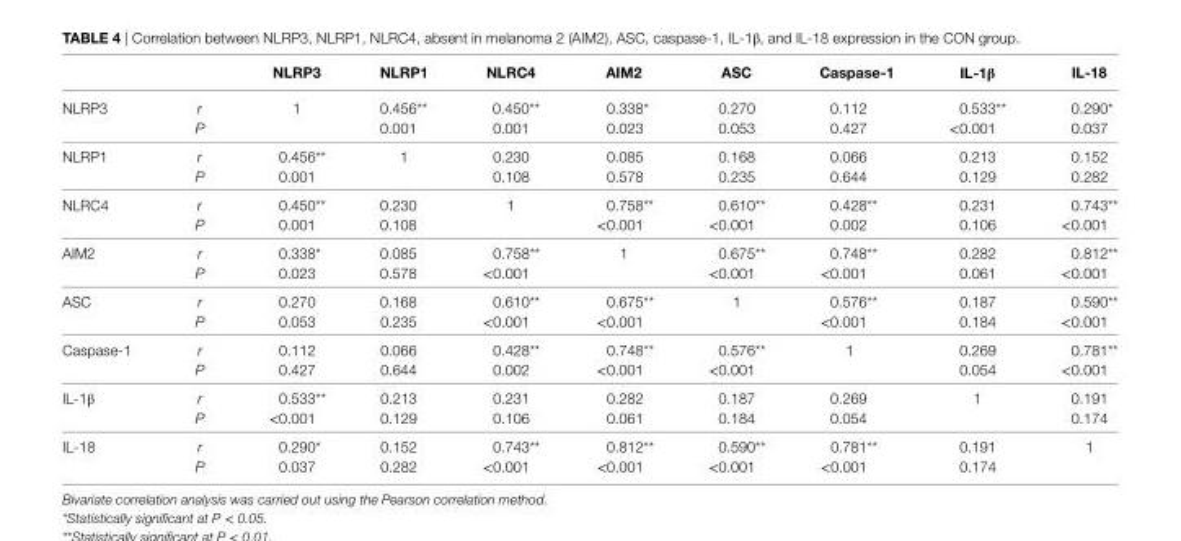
<table><thead><tr><td></td><td></td><td>nlrP3</td><td>nlrP1</td><td>nlrc4</td><td>aiM2</td><td>asc</td><td>caspase-1</td><td>il-1β</td><td>il-18</td></tr></thead><tbody><tr><td rowspan="2">NLRP3</td><td>r</td><td>1</td><td>0.456**</td><td>0.450**</td><td>0.338*</td><td>0.270</td><td>0.112</td><td>0.533**</td><td>0.290*</td></tr><tr><td>P</td><td></td><td>0.001</td><td>0.001</td><td>0.023</td><td>0.053</td><td>0.427</td><td>&lt;0.001</td><td>0.037</td></tr><tr><td rowspan="2">NLRP1</td><td>r</td><td>0.456**</td><td>1</td><td>0.230</td><td>0.085</td><td>0.168</td><td>0.066</td><td>0.213</td><td>0.152</td></tr><tr><td>P</td><td>0.001</td><td></td><td>0.108</td><td>0.578</td><td>0.235</td><td>0.644</td><td>0.129</td><td>0.282</td></tr><tr><td rowspan="2">NLRC4</td><td>r</td><td>0.450**</td><td>0.230</td><td>1</td><td>0.758**</td><td>0.610**</td><td>0.428**</td><td>0.231</td><td>0.743**</td></tr><tr><td>P</td><td>0.001</td><td>0.108</td><td></td><td>&lt;0.001</td><td>&lt;0.001</td><td>0.002</td><td>0.106</td><td>&lt;0.001</td></tr><tr><td rowspan="2">AIM2</td><td>r</td><td>0.338*</td><td>0.085</td><td>0.758**</td><td>1</td><td>0.675**</td><td>0.748**</td><td>0.282</td><td>0.812**</td></tr><tr><td>P</td><td>0.023</td><td>0.578</td><td>&lt;0.001</td><td></td><td>&lt;0.001</td><td>&lt;0.001</td><td>0.061</td><td>&lt;0.001</td></tr><tr><td rowspan="2">ASC</td><td>r</td><td>0.270</td><td>0.168</td><td>0.610**</td><td>0.675**</td><td>1</td><td>0.576**</td><td>0.187</td><td>0.590**</td></tr><tr><td>P</td><td>0.053</td><td>0.235</td><td>&lt;0.001</td><td>&lt;0.001</td><td></td><td>&lt;0.001</td><td>0.184</td><td>&lt;0.001</td></tr><tr><td rowspan="2">Caspase-1</td><td>r</td><td>0.112</td><td>0.066</td><td>0.428**</td><td>0.748**</td><td>0.576**</td><td>1</td><td>0.269</td><td>0.781**</td></tr><tr><td>P</td><td>0.427</td><td>0.644</td><td>0.002</td><td>&lt;0.001</td><td>&lt;0.001</td><td></td><td>0.054</td><td>&lt;0.001</td></tr><tr><td rowspan="2">IL-1β</td><td>r</td><td>0.533**</td><td>0.213</td><td>0.231</td><td>0.282</td><td>0.187</td><td>0.269</td><td>1</td><td>0.191</td></tr><tr><td>P</td><td>&lt;0.001</td><td>0.129</td><td>0.106</td><td>0.061</td><td>0.184</td><td>0.054</td><td></td><td>0.174</td></tr><tr><td rowspan="2">IL-18</td><td>r</td><td>0.290*</td><td>0.152</td><td>0.743**</td><td>0.812**</td><td>0.590**</td><td>0.781**</td><td>0.191</td><td>1</td></tr><tr><td>P</td><td>0.037</td><td>0.282</td><td>&lt;0.001</td><td>&lt;0.001</td><td>&lt;0.001</td><td>&lt;0.001</td><td>0.174</td><td></td></tr></tbody></table>